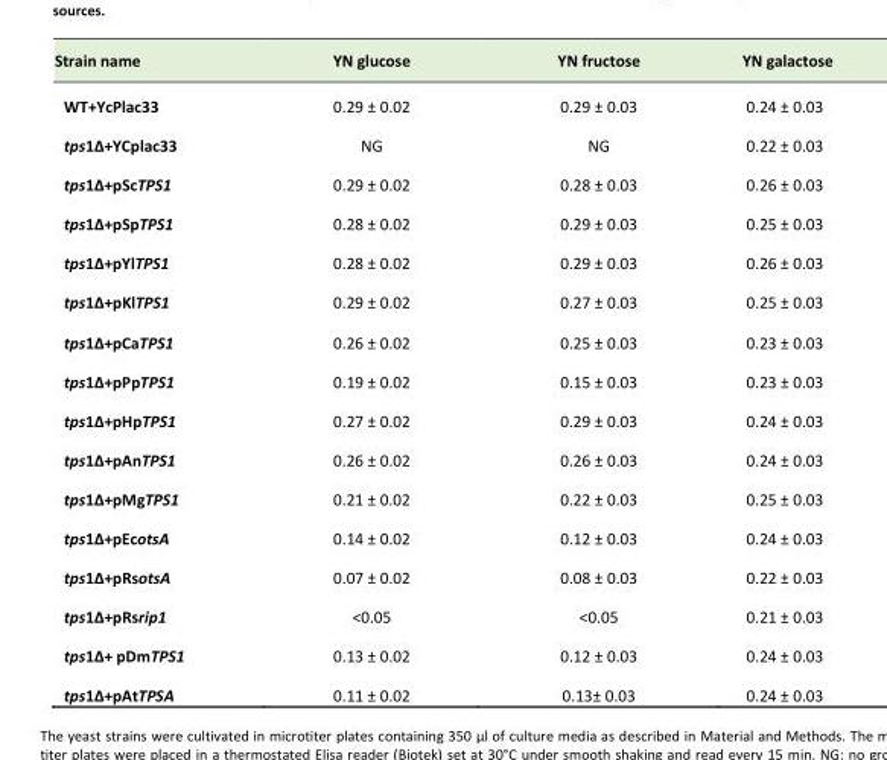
<table><thead><tr><td>Strain name</td><td>YN glucose</td><td>YN fructose</td><td>YN galactose</td></tr></thead><tbody><tr><td>WT+YcPlac33</td><td>0.29 ± 0.02</td><td>0.29 ± 0.03</td><td>0.24 ± 0.03</td></tr><tr><td>tps1Δ+YCplac33</td><td>NG</td><td>NG</td><td>0.22 ± 0.03</td></tr><tr><td>tps1Δ+pScTPS1</td><td>0.29 ± 0.02</td><td>0.28 ± 0.03</td><td>0.26 ± 0.03</td></tr><tr><td>tps1Δ+pSpTPS1</td><td>0.28 ± 0.02</td><td>0.29 ± 0.03</td><td>0.25 ± 0.03</td></tr><tr><td>tps1Δ+pYlTPS1</td><td>0.28 ± 0.02</td><td>0.29 ± 0.03</td><td>0.26 ± 0.03</td></tr><tr><td>tps1Δ+pKlTPS1</td><td>0.29 ± 0.02</td><td>0.27 ± 0.03</td><td>0.25 ± 0.03</td></tr><tr><td>tps1Δ+pCaTPS1</td><td>0.26 ± 0.02</td><td>0.25 ± 0.03</td><td>0.23 ± 0.03</td></tr><tr><td>tps1Δ+pPpTPS1</td><td>0.19 ± 0.02</td><td>0.15 ± 0.03</td><td>0.23 ± 0.03</td></tr><tr><td>tps1Δ+pHpTPS1</td><td>0.27 ± 0.02</td><td>0.29 ± 0.03</td><td>0.24 ± 0.03</td></tr><tr><td>tps1Δ+pAnTPS1</td><td>0.26 ± 0.02</td><td>0.26 ± 0.03</td><td>0.24 ± 0.03</td></tr><tr><td>tps1Δ+pMgTPS1</td><td>0.21 ± 0.02</td><td>0.22 ± 0.03</td><td>0.25 ± 0.03</td></tr><tr><td>tps1Δ+pEcotsA</td><td>0.14 ± 0.02</td><td>0.12 ± 0.03</td><td>0.24 ± 0.03</td></tr><tr><td>tps1Δ+pRsotsA</td><td>0.07 ± 0.02</td><td>0.08 ± 0.03</td><td>0.22 ± 0.03</td></tr><tr><td>tps1Δ+pRsrip1</td><td>&lt;0.05</td><td>&lt;0.05</td><td>0.21 ± 0.03</td></tr><tr><td>tps1Δ+ pDmTPS1</td><td>0.13 ± 0.02</td><td>0.12 ± 0.03</td><td>0.24 ± 0.03</td></tr><tr><td>tps1Δ+pAtTPSA</td><td>0.11 ± 0.02</td><td>0.13± 0.03</td><td>0.24 ± 0.03</td></tr></tbody></table>